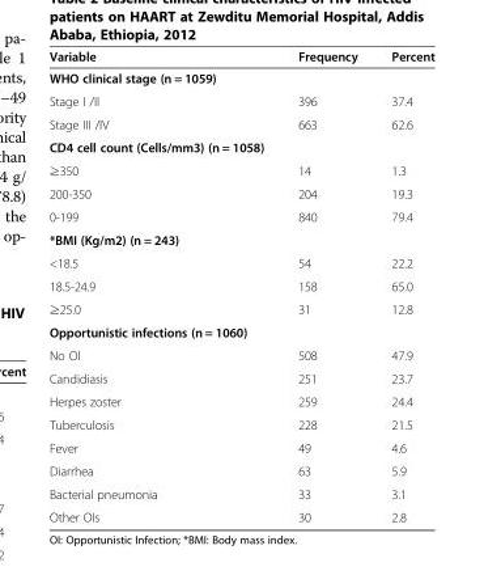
<table><thead><tr><td>Variable</td><td>Frequency</td><td>Percent</td></tr></thead><tbody><tr><td colspan="3">WHO clinical stage (n = 1059)</td></tr><tr><td>Stage I /II</td><td>396</td><td>37.4</td></tr><tr><td>Stage III /IV</td><td>663</td><td>62.6</td></tr><tr><td colspan="3">CD4 cell count (Cells/mm3) (n = 1058)</td></tr><tr><td>≥350</td><td>14</td><td>1.3</td></tr><tr><td>200-350</td><td>204</td><td>19.3</td></tr><tr><td>0-199</td><td>840</td><td>79.4</td></tr><tr><td colspan="3">*BMI (Kg/m2) (n = 243)</td></tr><tr><td>&lt;18.5</td><td>54</td><td>22.2</td></tr><tr><td>18.5-24.9</td><td>158</td><td>65.0</td></tr><tr><td>≥25.0</td><td>31</td><td>12.8</td></tr><tr><td colspan="3">Opportunistic infections (n = 1060)</td></tr><tr><td>No OI</td><td>508</td><td>47.9</td></tr><tr><td>Candidiasis</td><td>251</td><td>23.7</td></tr><tr><td>Herpes zoster</td><td>259</td><td>24.4</td></tr><tr><td>Tuberculosis</td><td>228</td><td>21.5</td></tr><tr><td>Fever</td><td>49</td><td>4.6</td></tr><tr><td>Diarrhea</td><td>63</td><td>5.9</td></tr><tr><td>Bacterial pneumonia</td><td>33</td><td>3.1</td></tr><tr><td>Other OIs</td><td>30</td><td>2.8</td></tr></tbody></table>